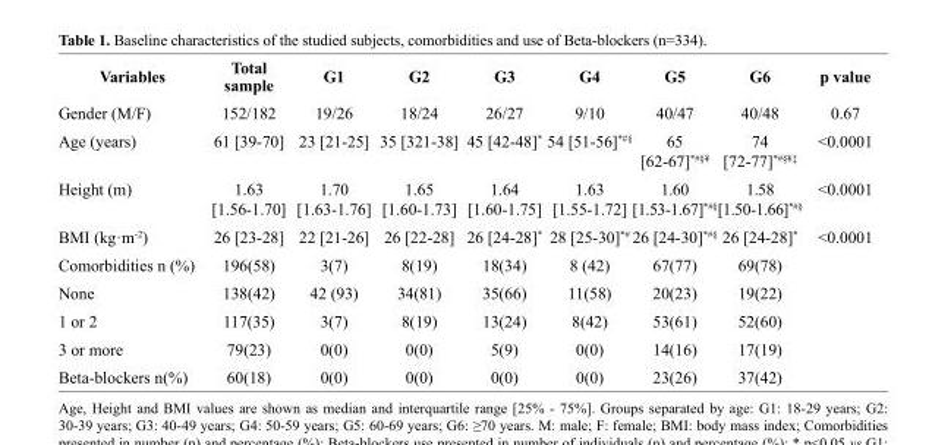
<table><thead><tr><td>Variables</td><td>Total sample</td><td>G1</td><td>G2</td><td>G3</td><td>G4</td><td>G5</td><td>G6</td><td>p value</td></tr></thead><tbody><tr><td>Gender (M/F)</td><td>152/182</td><td>19/26</td><td>18/24</td><td>26/27</td><td>9/10</td><td>40/47</td><td>40/48</td><td>0.67</td></tr><tr><td>Age (years)</td><td>61 [39-70]</td><td>23 [21-25]</td><td>35 [321-38]</td><td>45 [42-48]*</td><td>54 [51-56]<sup>*#§</sup></td><td>65 [62-67]<sup>*#§¥</sup></td><td>74 [72-77]<sup>*#§¥‡</sup></td><td>&lt;0.0001</td></tr><tr><td>Height (m)</td><td>1.63 [1.56-1.70]</td><td>1.70 [1.63-1.76]</td><td>1.65 [1.60-1.73]</td><td>1.64 [1.60-1.75]</td><td>1.63 [1.55-1.72]</td><td>1.60 [1.53-1.67]<sup>*#§</sup></td><td>1.58 [1.50-1.66]<sup>*#§</sup></td><td>&lt;0.0001</td></tr><tr><td>BMI (kg·m<sup>-2</sup>)</td><td>26 [23-28]</td><td>22 [21-26]</td><td>26 [22-28]</td><td>26 [24-28]*</td><td>28 [25-30]<sup>*#</sup></td><td>26 [24-30]<sup>*#§</sup></td><td>26 [24-28]*</td><td>&lt;0.0001</td></tr><tr><td>Comorbidities n (%)</td><td>196(58)</td><td>3(7)</td><td>8(19)</td><td>18(34)</td><td>8 (42)</td><td>67(77)</td><td>69(78)</td><td></td></tr><tr><td>None</td><td>138(42)</td><td>42 (93)</td><td>34(81)</td><td>35(66)</td><td>11(58)</td><td>20(23)</td><td>19(22)</td><td></td></tr><tr><td>1 or 2</td><td>117(35)</td><td>3(7)</td><td>8(19)</td><td>13(24)</td><td>8(42)</td><td>53(61)</td><td>52(60)</td><td></td></tr><tr><td>3 or more</td><td>79(23)</td><td>0(0)</td><td>0(0)</td><td>5(9)</td><td>0(0)</td><td>14(16)</td><td>17(19)</td><td></td></tr><tr><td>Beta-blockers n(%)</td><td>60(18)</td><td>0(0)</td><td>0(0)</td><td>0(0)</td><td>0(0)</td><td>23(26)</td><td>37(42)</td><td></td></tr></tbody></table>